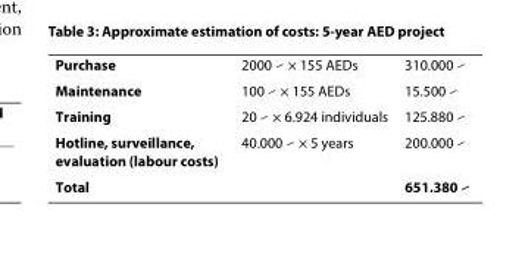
<table><tbody><tr><td>Purchase</td><td>2000 € × 155 AEDs</td><td>310.000 €</td></tr><tr><td>Maintenance</td><td>100 € × 155 AEDs</td><td>15.500 €</td></tr><tr><td>Training</td><td>20 € × 6.924 individuals</td><td>125.880 €</td></tr><tr><td>Hotline, surveillance, evaluation (labour costs)</td><td>40.000 € × 5 years</td><td>200.000 €</td></tr><tr><td>Total</td><td></td><td>651.380 €</td></tr></tbody></table>